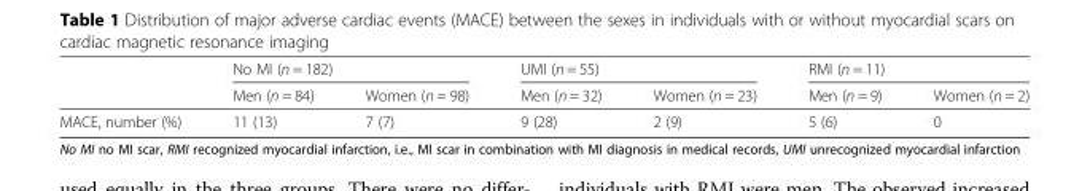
<table><thead><tr><td rowspan="2"></td><td colspan="2">No MI (n = 182)</td><td colspan="2">UMI (n = 55)</td><td colspan="2">RMI (n = 11)</td></tr><tr><td>Men (n = 84)</td><td>Women (n = 98)</td><td>Men (n = 32)</td><td>Women (n = 23)</td><td>Men (n = 9)</td><td>Women (n = 2)</td></tr></thead><tbody><tr><td>MACE, number (%)</td><td>11 (13)</td><td>7 (7)</td><td>9 (28)</td><td>2 (9)</td><td>5 (6)</td><td>0</td></tr></tbody></table>